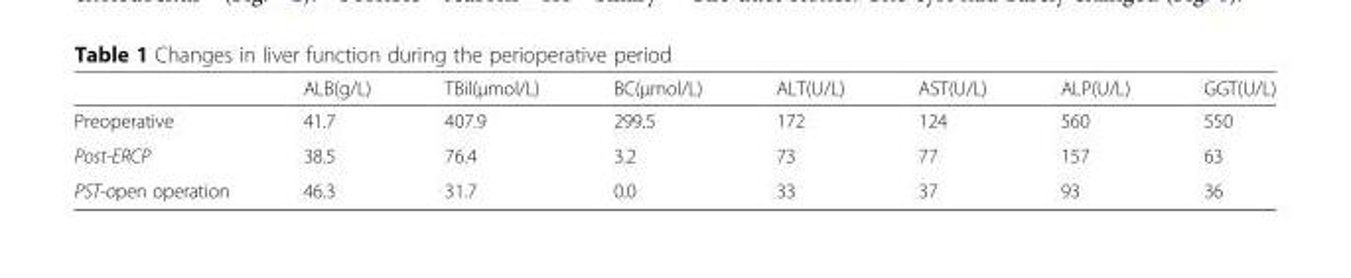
<table><thead><tr><td></td><td>ALB(g/L)</td><td>TBil(μmol/L)</td><td>BC(μmol/L)</td><td>ALT(U/L)</td><td>AST(U/L)</td><td>ALP(U/L)</td><td>GGT(U/L)</td></tr></thead><tbody><tr><td>Preoperative</td><td>41.7</td><td>407.9</td><td>299.5</td><td>172</td><td>124</td><td>560</td><td>550</td></tr><tr><td>Post-ERCP</td><td>38.5</td><td>76.4</td><td>3.2</td><td>73</td><td>77</td><td>157</td><td>63</td></tr><tr><td>PST-open operation</td><td>46.3</td><td>31.7</td><td>0.0</td><td>33</td><td>37</td><td>93</td><td>36</td></tr></tbody></table>